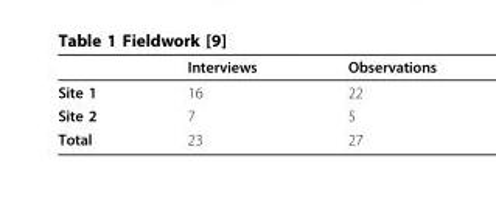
<table><thead><tr><td></td><td>Interviews</td><td>Observations</td></tr></thead><tbody><tr><td>Site 1</td><td>16</td><td>22</td></tr><tr><td>Site 2</td><td>7</td><td>5</td></tr><tr><td>Total</td><td>23</td><td>27</td></tr></tbody></table>